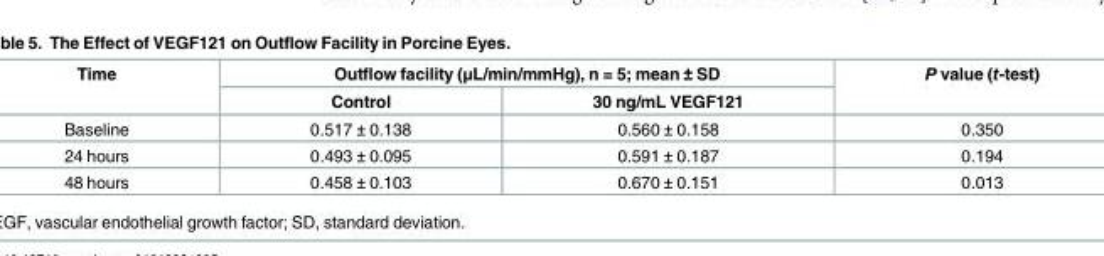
<table><thead><tr><td rowspan="2">Time</td><td colspan="2">Outflow facility (μL/min/mmHg), n = 5; mean ± SD</td><td rowspan="2">P value (t-test)</td></tr><tr><td>Control</td><td>30 ng/mL VEGF121</td></tr></thead><tbody><tr><td>Baseline</td><td>0.517 ± 0.138</td><td>0.560 ± 0.158</td><td>0.350</td></tr><tr><td>24 hours</td><td>0.493 ± 0.095</td><td>0.591 ± 0.187</td><td>0.194</td></tr><tr><td>48 hours</td><td>0.458 ± 0.103</td><td>0.670 ± 0.151</td><td>0.013</td></tr></tbody></table>